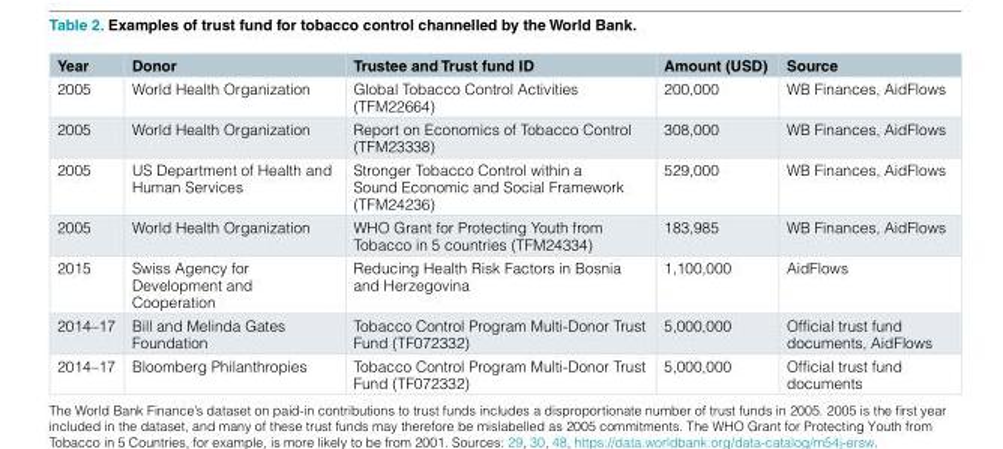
<table><thead><tr><td>Year</td><td>Donor</td><td>Trustee and Trust fund ID</td><td>Amount (USD)</td><td>Source</td></tr></thead><tbody><tr><td>2005</td><td>World Health Organization</td><td>Global Tobacco Control Activities (TFM22664)</td><td>200,000</td><td>WB Finances, AidFlows</td></tr><tr><td>2005</td><td>World Health Organization</td><td>Report on Economics of Tobacco Control (TFM23338)</td><td>308,000</td><td>WB Finances, AidFlows</td></tr><tr><td>2005</td><td>US Department of Health and Human Services</td><td>Stronger Tobacco Control within a Sound Economic and Social Framework (TFM24236)</td><td>529,000</td><td>WB Finances, AidFlows</td></tr><tr><td>2005</td><td>World Health Organization</td><td>WHO Grant for Protecting Youth from Tobacco in 5 countries (TFM24334)</td><td>183,985</td><td>WB Finances, AidFlows</td></tr><tr><td>2015</td><td>Swiss Agency for Development and Cooperation</td><td>Reducing Health Risk Factors in Bosnia and Herzegovina</td><td>1,100,000</td><td>AidFlows</td></tr><tr><td>2014–17</td><td>Bill and Melinda Gates Foundation</td><td>Tobacco Control Program Multi-Donor Trust Fund (TF072332)</td><td>5,000,000</td><td>Official trust fund documents, AidFlows</td></tr><tr><td>2014–17</td><td>Bloomberg Philanthropies</td><td>Tobacco Control Program Multi-Donor Trust Fund (TF072332)</td><td>5,000,000</td><td>Official trust fund documents</td></tr></tbody></table>